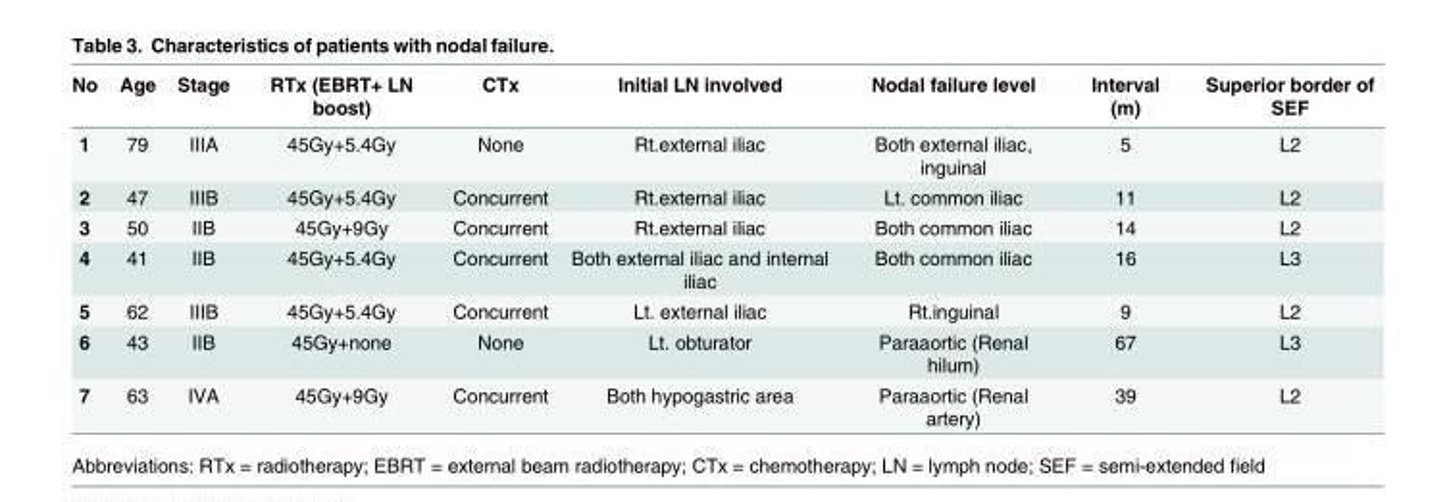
<table><thead><tr><td>No</td><td>Age</td><td>Stage</td><td>RTx (EBRT+ LN boost)</td><td>CTx</td><td>Initial LN involved</td><td>Nodal failure level</td><td>Interval (m)</td><td>Superior border of SEF</td></tr></thead><tbody><tr><td>1</td><td>79</td><td>IIIA</td><td>45Gy+5.4Gy</td><td>None</td><td>Rt.external iliac</td><td>Both external iliac, inguinal</td><td>5</td><td>L2</td></tr><tr><td>2</td><td>47</td><td>IIIB</td><td>45Gy+5.4Gy</td><td>Concurrent</td><td>Rt.external iliac</td><td>Lt. common iliac</td><td>11</td><td>L2</td></tr><tr><td>3</td><td>50</td><td>IIB</td><td>45Gy+9Gy</td><td>Concurrent</td><td>Rt.external iliac</td><td>Both common iliac</td><td>14</td><td>L2</td></tr><tr><td>4</td><td>41</td><td>IIB</td><td>45Gy+5.4Gy</td><td>Concurrent</td><td>Both external iliac and internal iliac</td><td>Both common iliac</td><td>16</td><td>L3</td></tr><tr><td>5</td><td>62</td><td>IIIB</td><td>45Gy+5.4Gy</td><td>Concurrent</td><td>Lt. external iliac</td><td>Rt.inguinal</td><td>9</td><td>L2</td></tr><tr><td>6</td><td>43</td><td>IIB</td><td>45Gy+none</td><td>None</td><td>Lt. obturator</td><td>Paraaortic (Renal hilum)</td><td>67</td><td>L3</td></tr><tr><td>7</td><td>63</td><td>IVA</td><td>45Gy+9Gy</td><td>Concurrent</td><td>Both hypogastric area</td><td>Paraaortic (Renal artery)</td><td>39</td><td>L2</td></tr></tbody></table>